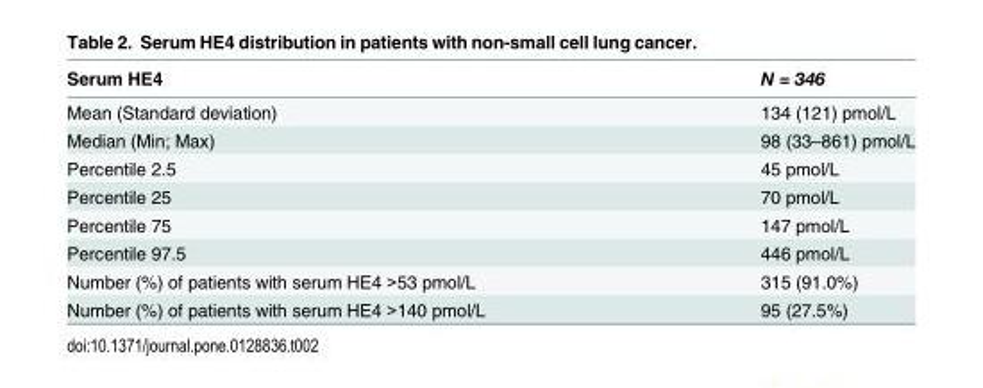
<table><thead><tr><td>Serum HE4</td><td>N = 346</td></tr></thead><tbody><tr><td>Mean (Standard deviation)</td><td>134 (121) pmol/L</td></tr><tr><td>Median (Min; Max)</td><td>98 (33–861) pmol/L</td></tr><tr><td>Percentile 2.5</td><td>45 pmol/L</td></tr><tr><td>Percentile 25</td><td>70 pmol/L</td></tr><tr><td>Percentile 75</td><td>147 pmol/L</td></tr><tr><td>Percentile 97.5</td><td>446 pmol/L</td></tr><tr><td>Number (%) of patients with serum HE4 &gt;53 pmol/L</td><td>315 (91.0%)</td></tr><tr><td>Number (%) of patients with serum HE4 &gt;140 pmol/L</td><td>95 (27.5%)</td></tr></tbody></table>